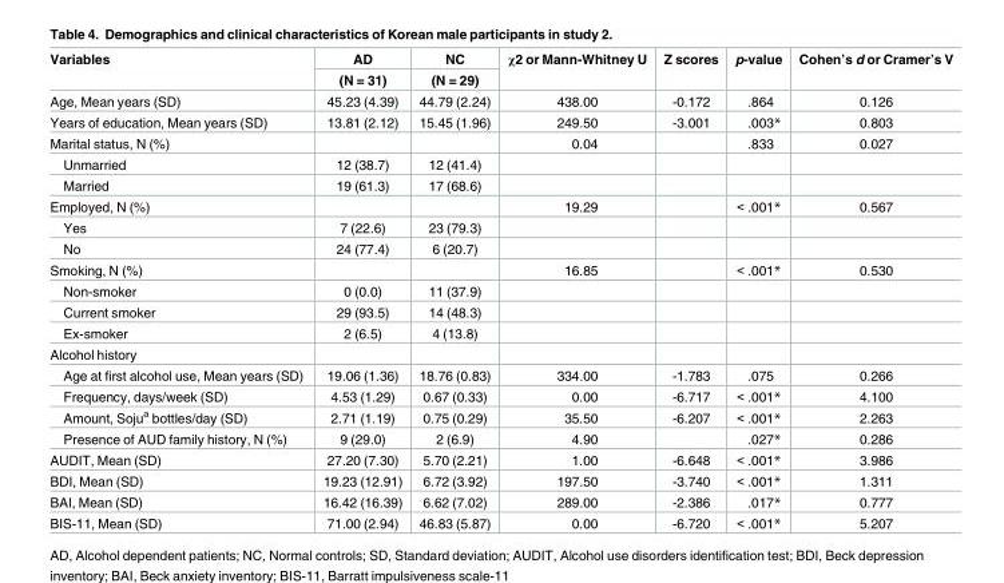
<table><thead><tr><td rowspan="2">Variables</td><td rowspan="2">AD (N = 31)</td><td rowspan="2">NC (N = 29)</td><td rowspan="2">χ2 or Mann-Whitney U</td><td rowspan="2">Z scores</td><td rowspan="2">p-value</td><td rowspan="2">Cohen’s d or Cramer’s V</td></tr><tr></tr></thead><tbody><tr><td>Age, Mean years (SD)</td><td>45.23 (4.39)</td><td>44.79 (2.24)</td><td>438.00</td><td>-0.172</td><td>.864</td><td>0.126</td></tr><tr><td>Years of education, Mean years (SD)</td><td>13.81 (2.12)</td><td>15.45 (1.96)</td><td>249.50</td><td>-3.001</td><td>.003*</td><td>0.803</td></tr><tr><td>Marital status, N (%)</td><td></td><td></td><td>0.04</td><td></td><td>.833</td><td>0.027</td></tr><tr><td>Unmarried</td><td>12 (38.7)</td><td>12 (41.4)</td><td></td><td></td><td></td><td></td></tr><tr><td>Married</td><td>19 (61.3)</td><td>17 (68.6)</td><td></td><td></td><td></td><td></td></tr><tr><td>Employed, N (%)</td><td></td><td></td><td>19.29</td><td></td><td>&lt; .001*</td><td>0.567</td></tr><tr><td>Yes</td><td>7 (22.6)</td><td>23 (79.3)</td><td></td><td></td><td></td><td></td></tr><tr><td>No</td><td>24 (77.4)</td><td>6 (20.7)</td><td></td><td></td><td></td><td></td></tr><tr><td>Smoking, N (%)</td><td></td><td></td><td>16.85</td><td></td><td>&lt; .001*</td><td>0.530</td></tr><tr><td>Non-smoker</td><td>0 (0.0)</td><td>11 (37.9)</td><td></td><td></td><td></td><td></td></tr><tr><td>Current smoker</td><td>29 (93.5)</td><td>14 (48.3)</td><td></td><td></td><td></td><td></td></tr><tr><td>Ex-smoker</td><td>2 (6.5)</td><td>4 (13.8)</td><td></td><td></td><td></td><td></td></tr><tr><td colspan="7">Alcohol history</td></tr><tr><td>Age at first alcohol use, Mean years (SD)</td><td>19.06 (1.36)</td><td>18.76 (0.83)</td><td>334.00</td><td>-1.783</td><td>.075</td><td>0.266</td></tr><tr><td>Frequency, days/week (SD)</td><td>4.53 (1.29)</td><td>0.67 (0.33)</td><td>0.00</td><td>-6.717</td><td>&lt; .001*</td><td>4.100</td></tr><tr><td>Amount, Soju<sup>a</sup> bottles/day (SD)</td><td>2.71 (1.19)</td><td>0.75 (0.29)</td><td>35.50</td><td>-6.207</td><td>&lt; .001*</td><td>2.263</td></tr><tr><td>Presence of AUD family history, N (%)</td><td>9 (29.0)</td><td>2 (6.9)</td><td>4.90</td><td></td><td>.027*</td><td>0.286</td></tr><tr><td>AUDIT, Mean (SD)</td><td>27.20 (7.30)</td><td>5.70 (2.21)</td><td>1.00</td><td>-6.648</td><td>&lt; .001*</td><td>3.986</td></tr><tr><td>BDI, Mean (SD)</td><td>19.23 (12.91)</td><td>6.72 (3.92)</td><td>197.50</td><td>-3.740</td><td>&lt; .001*</td><td>1.311</td></tr><tr><td>BAI, Mean (SD)</td><td>16.42 (16.39)</td><td>6.62 (7.02)</td><td>289.00</td><td>-2.386</td><td>.017*</td><td>0.777</td></tr><tr><td>BIS-11, Mean (SD)</td><td>71.00 (2.94)</td><td>46.83 (5.87)</td><td>0.00</td><td>-6.720</td><td>&lt; .001*</td><td>5.207</td></tr></tbody></table>